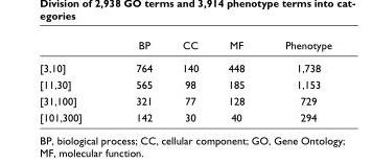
<table><thead><tr><td></td><td>BP</td><td>CC</td><td>MF</td><td>Phenotype</td></tr></thead><tbody><tr><td>[3,10]</td><td>764</td><td>140</td><td>448</td><td>1,738</td></tr><tr><td>[11,30]</td><td>565</td><td>98</td><td>185</td><td>1,153</td></tr><tr><td>[31,100]</td><td>321</td><td>77</td><td>128</td><td>729</td></tr><tr><td>[101,300]</td><td>142</td><td>30</td><td>40</td><td>294</td></tr></tbody></table>